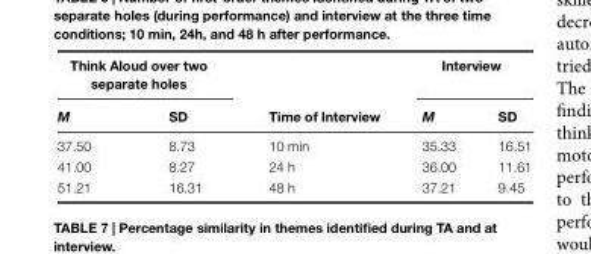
<table><thead><tr><td colspan="2">Think Aloud over two separate holes</td><td rowspan="2">Time of Interview</td><td colspan="2">Interview</td></tr><tr><td>M</td><td>SD</td><td>M</td><td>SD</td></tr></thead><tbody><tr><td>37.50</td><td>8.73</td><td>10 min</td><td>35.33</td><td>16.51</td></tr><tr><td>41.00</td><td>8.27</td><td>24 h</td><td>36.00</td><td>11.61</td></tr><tr><td>51.21</td><td>16.31</td><td>48 h</td><td>37.21</td><td>9.45</td></tr></tbody></table>